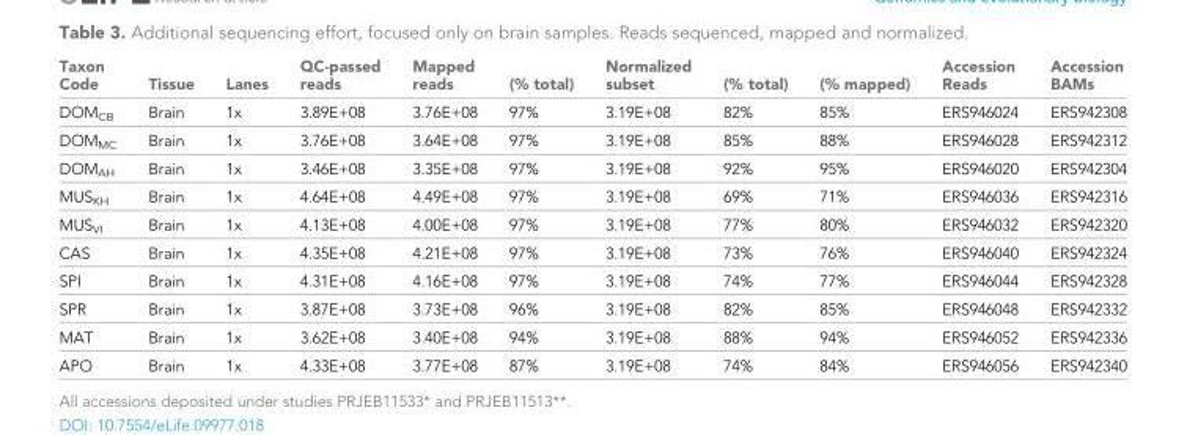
<table><thead><tr><td>Taxon Code</td><td>Tissue</td><td>Lanes</td><td>QC-passed reads</td><td>Mapped reads</td><td>(% total)</td><td>Normalized subset</td><td>(% total)</td><td>(% mapped)</td><td>Accession Reads</td><td>Accession BAMs</td></tr></thead><tbody><tr><td>DOM<sub>CB</sub></td><td>Brain</td><td>1x</td><td>3.89E+08</td><td>3.76E+08</td><td>97%</td><td>3.19E+08</td><td>82%</td><td>85%</td><td>ERS946024</td><td>ERS942308</td></tr><tr><td>DOM<sub>MC</sub></td><td>Brain</td><td>1x</td><td>3.76E+08</td><td>3.64E+08</td><td>97%</td><td>3.19E+08</td><td>85%</td><td>88%</td><td>ERS946028</td><td>ERS942312</td></tr><tr><td>DOM<sub>AH</sub></td><td>Brain</td><td>1x</td><td>3.46E+08</td><td>3.35E+08</td><td>97%</td><td>3.19E+08</td><td>92%</td><td>95%</td><td>ERS946020</td><td>ERS942304</td></tr><tr><td>MUS<sub>KH</sub></td><td>Brain</td><td>1x</td><td>4.64E+08</td><td>4.49E+08</td><td>97%</td><td>3.19E+08</td><td>69%</td><td>71%</td><td>ERS946036</td><td>ERS942316</td></tr><tr><td>MUS<sub>VI</sub></td><td>Brain</td><td>1x</td><td>4.13E+08</td><td>4.00E+08</td><td>97%</td><td>3.19E+08</td><td>77%</td><td>80%</td><td>ERS946032</td><td>ERS942320</td></tr><tr><td>CAS</td><td>Brain</td><td>1x</td><td>4.35E+08</td><td>4.21E+08</td><td>97%</td><td>3.19E+08</td><td>73%</td><td>76%</td><td>ERS946040</td><td>ERS942324</td></tr><tr><td>SPI</td><td>Brain</td><td>1x</td><td>4.31E+08</td><td>4.16E+08</td><td>97%</td><td>3.19E+08</td><td>74%</td><td>77%</td><td>ERS946044</td><td>ERS942328</td></tr><tr><td>SPR</td><td>Brain</td><td>1x</td><td>3.87E+08</td><td>3.73E+08</td><td>96%</td><td>3.19E+08</td><td>82%</td><td>85%</td><td>ERS946048</td><td>ERS942332</td></tr><tr><td>MAT</td><td>Brain</td><td>1x</td><td>3.62E+08</td><td>3.40E+08</td><td>94%</td><td>3.19E+08</td><td>88%</td><td>94%</td><td>ERS946052</td><td>ERS942336</td></tr><tr><td>APO</td><td>Brain</td><td>1x</td><td>4.33E+08</td><td>3.77E+08</td><td>87%</td><td>3.19E+08</td><td>74%</td><td>84%</td><td>ERS946056</td><td>ERS942340</td></tr></tbody></table>